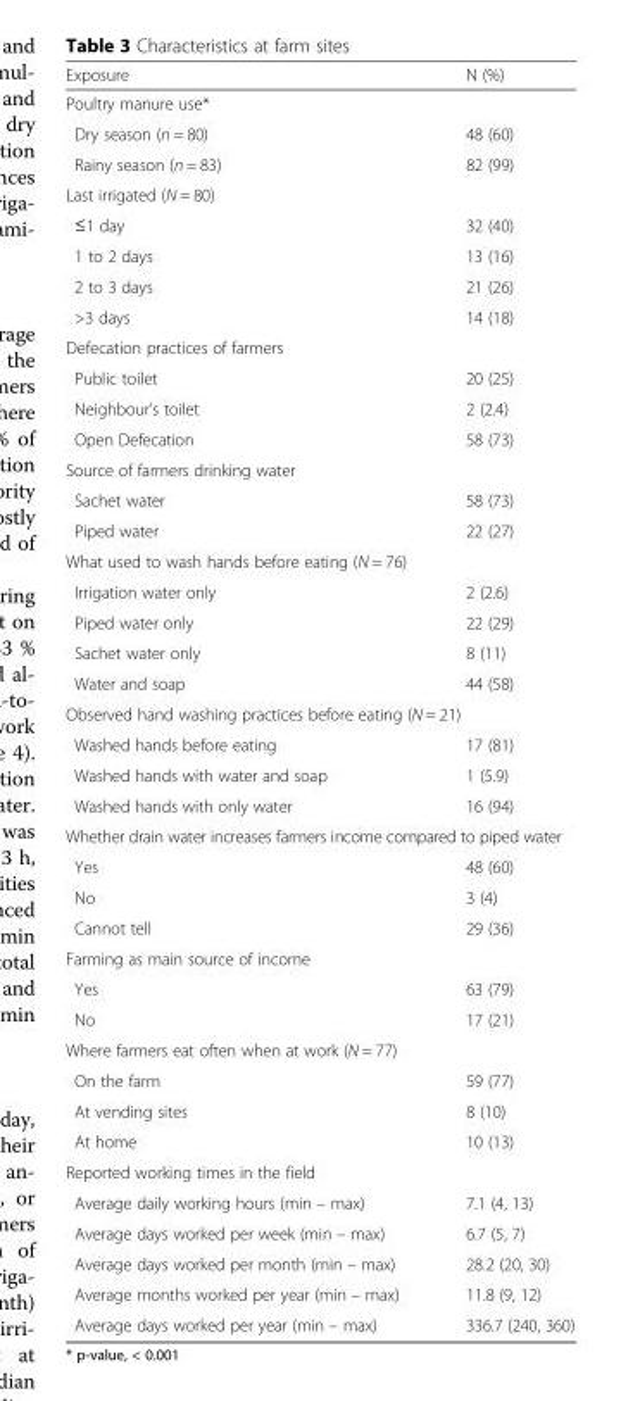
<table><thead><tr><td>Exposure</td><td>N (%)</td></tr></thead><tbody><tr><td colspan="2">Poultry manure use*</td></tr><tr><td>Dry season (n = 80)</td><td>48 (60)</td></tr><tr><td>Rainy season (n = 83)</td><td>82 (99)</td></tr><tr><td colspan="2">Last irrigated (N = 80)</td></tr><tr><td>≤1 day</td><td>32 (40)</td></tr><tr><td>1 to 2 days</td><td>13 (16)</td></tr><tr><td>2 to 3 days</td><td>21 (26)</td></tr><tr><td>&gt;3 days</td><td>14 (18)</td></tr><tr><td colspan="2">Defecation practices of farmers</td></tr><tr><td>Public toilet</td><td>20 (25)</td></tr><tr><td>Neighbour’s toilet</td><td>2 (2.4)</td></tr><tr><td>Open Defecation</td><td>58 (73)</td></tr><tr><td colspan="2">Source of farmers drinking water</td></tr><tr><td>Sachet water</td><td>58 (73)</td></tr><tr><td>Piped water</td><td>22 (27)</td></tr><tr><td colspan="2">What used to wash hands before eating (N = 76)</td></tr><tr><td>Irrigation water only</td><td>2 (2.6)</td></tr><tr><td>Piped water only</td><td>22 (29)</td></tr><tr><td>Sachet water only</td><td>8 (11)</td></tr><tr><td>Water and soap</td><td>44 (58)</td></tr><tr><td colspan="2">Observed hand washing practices before eating (N = 21)</td></tr><tr><td>Washed hands before eating</td><td>17 (81)</td></tr><tr><td>Washed hands with water and soap</td><td>1 (5.9)</td></tr><tr><td>Washed hands with only water</td><td>16 (94)</td></tr><tr><td colspan="2">Whether drain water increases farmers income compared to piped water</td></tr><tr><td>Yes</td><td>48 (60)</td></tr><tr><td>No</td><td>3 (4)</td></tr><tr><td>Cannot tell</td><td>29 (36)</td></tr><tr><td colspan="2">Farming as main source of income</td></tr><tr><td>Yes</td><td>63 (79)</td></tr><tr><td>No</td><td>17 (21)</td></tr><tr><td colspan="2">Where farmers eat often when at work (N = 77)</td></tr><tr><td>On the farm</td><td>59 (77)</td></tr><tr><td>At vending sites</td><td>8 (10)</td></tr><tr><td>At home</td><td>10 (13)</td></tr><tr><td colspan="2">Reported working times in the field</td></tr><tr><td>Average daily working hours (min – max)</td><td>7.1 (4, 13)</td></tr><tr><td>Average days worked per week (min – max)</td><td>6.7 (5, 7)</td></tr><tr><td>Average days worked per month (min – max)</td><td>28.2 (20, 30)</td></tr><tr><td>Average months worked per year (min – max)</td><td>11.8 (9, 12)</td></tr><tr><td>Average days worked per year (min – max)</td><td>336.7 (240, 360)</td></tr></tbody></table>